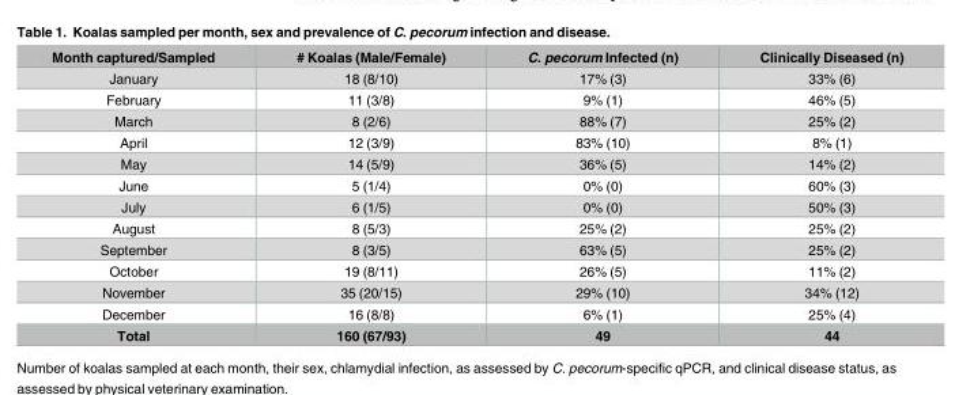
<table><thead><tr><td>Month captured/Sampled</td><td># Koalas (Male/Female)</td><td>C. pecorum Infected (n)</td><td>Clinically Diseased (n)</td></tr></thead><tbody><tr><td>January</td><td>18 (8/10)</td><td>17% (3)</td><td>33% (6)</td></tr><tr><td>February</td><td>11 (3/8)</td><td>9% (1)</td><td>46% (5)</td></tr><tr><td>March</td><td>8 (2/6)</td><td>88% (7)</td><td>25% (2)</td></tr><tr><td>April</td><td>12 (3/9)</td><td>83% (10)</td><td>8% (1)</td></tr><tr><td>May</td><td>14 (5/9)</td><td>36% (5)</td><td>14% (2)</td></tr><tr><td>June</td><td>5 (1/4)</td><td>0% (0)</td><td>60% (3)</td></tr><tr><td>July</td><td>6 (1/5)</td><td>0% (0)</td><td>50% (3)</td></tr><tr><td>August</td><td>8 (5/3)</td><td>25% (2)</td><td>25% (2)</td></tr><tr><td>September</td><td>8 (3/5)</td><td>63% (5)</td><td>25% (2)</td></tr><tr><td>October</td><td>19 (8/11)</td><td>26% (5)</td><td>11% (2)</td></tr><tr><td>November</td><td>35 (20/15)</td><td>29% (10)</td><td>34% (12)</td></tr><tr><td>December</td><td>16 (8/8)</td><td>6% (1)</td><td>25% (4)</td></tr><tr><td>Total</td><td>160 (67/93)</td><td>49</td><td>44</td></tr></tbody></table>